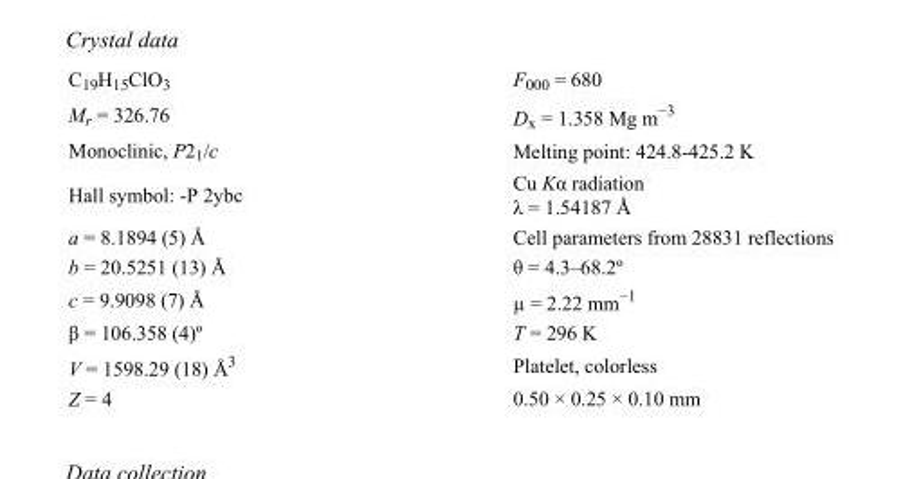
<table><tbody><tr><td>C<sub>19</sub>H<sub>15</sub>ClO<sub>3</sub></td><td>F<sub>000</sub> = 680</td></tr><tr><td>M<sub>r</sub> = 326.76</td><td>D<sub>x</sub> = 1.358 Mg m<sup>−3</sup></td></tr><tr><td>Monoclinic, P2<sub>1</sub>/c</td><td>Melting point= 424.8-425.2 K</td></tr><tr><td>Hall symbol: -P 2ybc</td><td>Cu Kα radiation λ = 1.54187 Å</td></tr><tr><td>a = 8.1894 (5) Å</td><td>Cell parameters from 28831 reflections</td></tr><tr><td>b = 20.5251 (13) Å</td><td>θ = 4.3–68.2º</td></tr><tr><td>c = 9.9098 (7) Å</td><td>µ = 2.22 mm<sup>−1</sup></td></tr><tr><td>β = 106.358 (4)º</td><td>T = 296 K</td></tr><tr><td>V = 1598.29 (18) Å<sup>3</sup></td><td>Platelet, colorless</td></tr><tr><td>Z = 4</td><td>0.50 × 0.25 × 0.10 mm</td></tr></tbody></table>